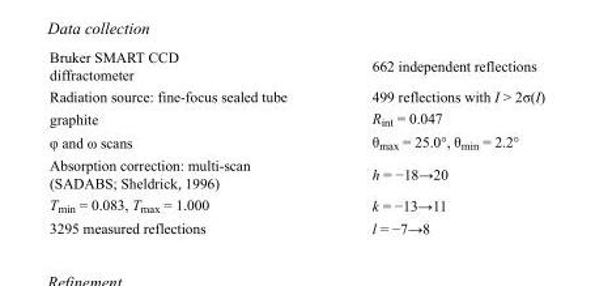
<table><tbody><tr><td>Bruker SMART CCD diffractometer</td><td>662 independent reflections</td></tr><tr><td>Radiation source: fine-focus sealed tube</td><td>499 reflections with I &gt; 2σ(I)</td></tr><tr><td>graphite</td><td>R<sub>int</sub> = 0.047</td></tr><tr><td>φ and ω scans</td><td>θ<sub>max</sub> = 25.0°, θ<sub>min</sub> = 2.2°</td></tr><tr><td>Absorption correction: multi-scan (SADABS; Sheldrick, 1996)</td><td>h = −18→20</td></tr><tr><td>T<sub>min</sub> = 0.083, T<sub>max</sub> = 1.000</td><td>k = −13→11</td></tr><tr><td>3295 measured reflections</td><td>l = −7→8</td></tr></tbody></table>